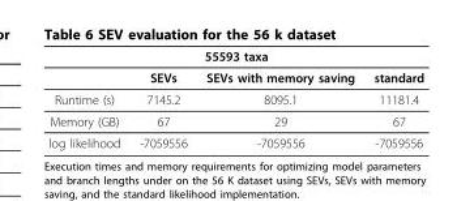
<table><thead><tr><td colspan="4">55593 taxa</td></tr><tr><td></td><td>SEVs</td><td>SEVs with memory saving</td><td>standard</td></tr></thead><tbody><tr><td>Runtime (s)</td><td>7145.2</td><td>8095.1</td><td>11181.4</td></tr><tr><td>Memory (GB)</td><td>67</td><td>29</td><td>67</td></tr><tr><td>log likelihood</td><td>-7059556</td><td>-7059556</td><td>-7059556</td></tr></tbody></table>